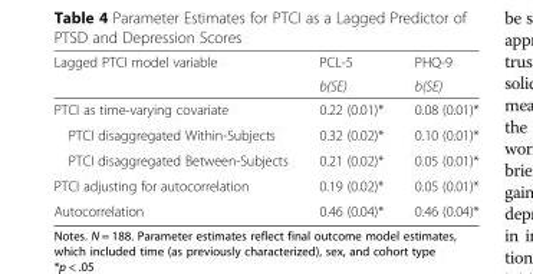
<table><thead><tr><td rowspan="2">Lagged PTCI model variable</td><td rowspan="2">PCL-5 b(SE)</td><td rowspan="2">PHQ-9 b(SE)</td></tr><tr></tr></thead><tbody><tr><td>PTCI as time-varying covariate</td><td>0.22 (0.01)*</td><td>0.08 (0.01)*</td></tr><tr><td>PTCI disaggregated Within-Subjects</td><td>0.32 (0.02)*</td><td>0.10 (0.01)*</td></tr><tr><td>PTCI disaggregated Between-Subjects</td><td>0.21 (0.02)*</td><td>0.05 (0.01)*</td></tr><tr><td>PTCI adjusting for autocorrelation</td><td>0.19 (0.02)*</td><td>0.05 (0.01)*</td></tr><tr><td>Autocorrelation</td><td>0.46 (0.04)*</td><td>0.46 (0.04)*</td></tr></tbody></table>